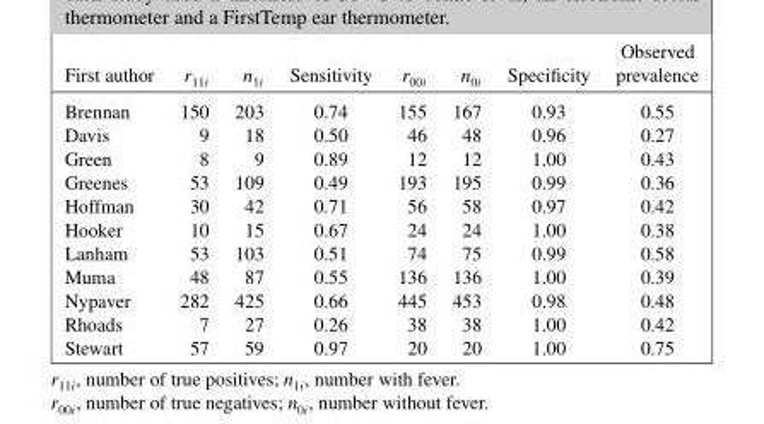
<table><thead><tr><td>First author</td><td>r<sub>11i</sub></td><td>n<sub>1i</sub></td><td>Sensitivity</td><td>r<sub>00i</sub></td><td>n<sub>0i</sub></td><td>Specificity</td><td>prevalence</td></tr></thead><tbody><tr><td>Brennan</td><td>150</td><td>203</td><td>0.74</td><td>155</td><td>167</td><td>0.93</td><td>0.55</td></tr><tr><td>Davis</td><td>9</td><td>18</td><td>0.50</td><td>46</td><td>48</td><td>0.96</td><td>0.27</td></tr><tr><td>Green</td><td>8</td><td>9</td><td>0.89</td><td>12</td><td>12</td><td>1.00</td><td>0.43</td></tr><tr><td>Greenes</td><td>53</td><td>109</td><td>0.49</td><td>193</td><td>195</td><td>0.99</td><td>0.36</td></tr><tr><td>Hoffman</td><td>30</td><td>42</td><td>0.71</td><td>56</td><td>58</td><td>0.97</td><td>0.42</td></tr><tr><td>Hooker</td><td>10</td><td>15</td><td>0.67</td><td>24</td><td>24</td><td>1.00</td><td>0.38</td></tr><tr><td>Lanham</td><td>53</td><td>103</td><td>0.51</td><td>74</td><td>75</td><td>0.99</td><td>0.58</td></tr><tr><td>Muma</td><td>48</td><td>87</td><td>0.55</td><td>136</td><td>136</td><td>1.00</td><td>0.39</td></tr><tr><td>Nypaver</td><td>282</td><td>425</td><td>0.66</td><td>445</td><td>453</td><td>0.98</td><td>0.48</td></tr><tr><td>Rhoads</td><td>7</td><td>27</td><td>0.26</td><td>38</td><td>38</td><td>1.00</td><td>0.42</td></tr><tr><td>Stewart</td><td>57</td><td>59</td><td>0.97</td><td>20</td><td>20</td><td>1.00</td><td>0.75</td></tr></tbody></table>